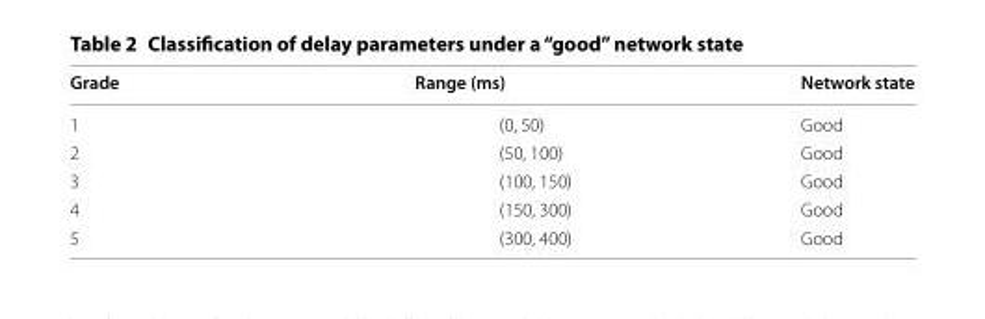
<table><thead><tr><td>Grade</td><td>Range (ms)</td><td>Network state</td></tr></thead><tbody><tr><td>1</td><td>(0, 50)</td><td>Good</td></tr><tr><td>2</td><td>(50, 100)</td><td>Good</td></tr><tr><td>3</td><td>(100, 150)</td><td>Good</td></tr><tr><td>4</td><td>(150, 300)</td><td>Good</td></tr><tr><td>5</td><td>(300, 400)</td><td>Good</td></tr></tbody></table>